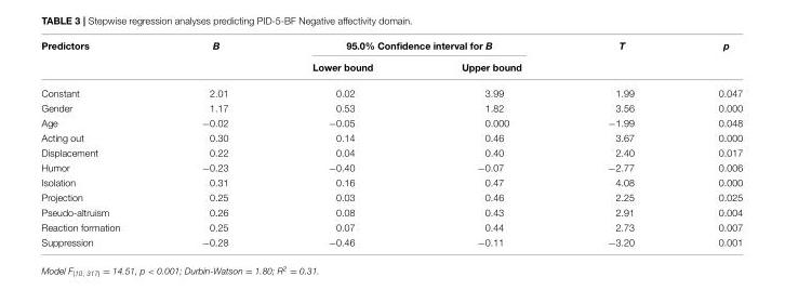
<table><thead><tr><td rowspan="2">Predictors</td><td rowspan="2">B</td><td colspan="2">95.0% Confidence interval for B</td><td rowspan="2">T</td><td rowspan="2">p</td></tr><tr><td>Lower bound</td><td>Upper bound</td></tr></thead><tbody><tr><td>Constant</td><td>2.01</td><td>0.02</td><td>3.99</td><td>1.99</td><td>0.047</td></tr><tr><td>Gender</td><td>1.17</td><td>0.53</td><td>1.82</td><td>3.56</td><td>0.000</td></tr><tr><td>Age</td><td>−0.02</td><td>−0.05</td><td>0.000</td><td>−1.99</td><td>0.048</td></tr><tr><td>Acting out</td><td>0.30</td><td>0.14</td><td>0.46</td><td>3.67</td><td>0.000</td></tr><tr><td>Displacement</td><td>0.22</td><td>0.04</td><td>0.40</td><td>2.40</td><td>0.017</td></tr><tr><td>Humor</td><td>−0.23</td><td>−0.40</td><td>−0.07</td><td>−2.77</td><td>0.006</td></tr><tr><td>Isolation</td><td>0.31</td><td>0.16</td><td>0.47</td><td>4.08</td><td>0.000</td></tr><tr><td>Projection</td><td>0.25</td><td>0.03</td><td>0.46</td><td>2.25</td><td>0.025</td></tr><tr><td>Pseudo-altruism</td><td>0.26</td><td>0.08</td><td>0.43</td><td>2.91</td><td>0.004</td></tr><tr><td>Reaction formation</td><td>0.25</td><td>0.07</td><td>0.44</td><td>2.73</td><td>0.007</td></tr><tr><td>Suppression</td><td>−0.28</td><td>−0.46</td><td>−0.11</td><td>−3.20</td><td>0.001</td></tr></tbody></table>